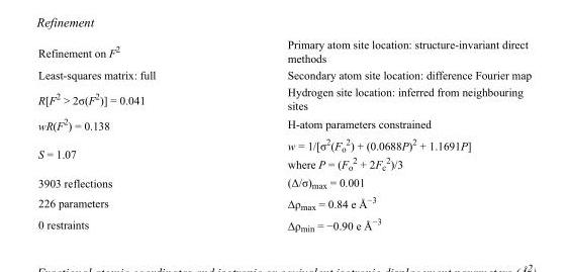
<table><tbody><tr><td>Refinement on F<sup>2</sup></td><td>Primary atom site location: structure-invariant direct methods</td></tr><tr><td>Least-squares matrix: full</td><td>Secondary atom site location: difference Fourier map</td></tr><tr><td>R[F<sup>2</sup> &gt; 2σ(F<sup>2</sup>)] = 0.041</td><td>Hydrogen site location: inferred from neighbouring sites</td></tr><tr><td>wR(F<sup>2</sup>) = 0.138</td><td>H-atom parameters constrained</td></tr><tr><td>S = 1.07</td><td>w = 1/[σ<sup>2</sup>(F<sub>o</sub> <sup>2</sup>) + (0.0688P)<sup>2</sup> + 1.1691P] where P = (F<sub>o</sub> <sup>2</sup> + 2F<sub>c</sub> <sup>2</sup>)/3</td></tr><tr><td>3903 reflections</td><td>(Δ/σ)<sub>max</sub> = 0.001</td></tr><tr><td>226 parameters</td><td>Δρ<sub>max</sub> = 0.84 e Å<sup>−3</sup></td></tr><tr><td>0 restraints</td><td>Δρ<sub>min</sub> = −0.90 e Å<sup>−3</sup></td></tr></tbody></table>